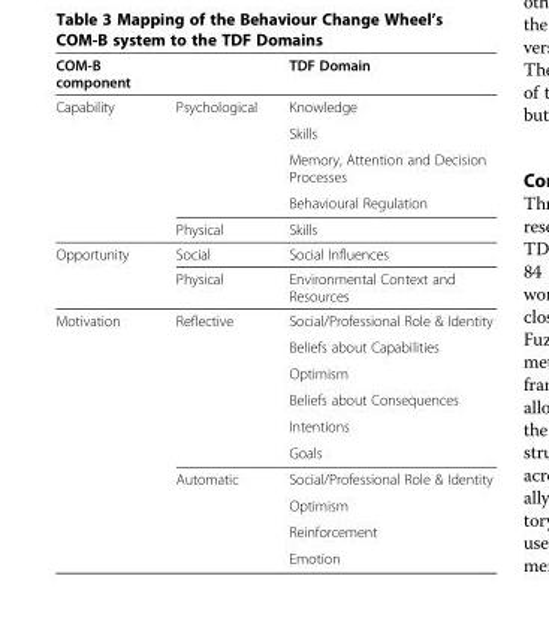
<table><thead><tr><td>COM-B component</td><td></td><td>TDF Domain</td></tr></thead><tbody><tr><td rowspan="5">Capability</td><td>Psychological</td><td>Knowledge</td></tr><tr><td></td><td>Skills</td></tr><tr><td></td><td>Memory, Attention and Decision Processes</td></tr><tr><td></td><td>Behavioural Regulation</td></tr><tr><td>Physical</td><td>Skills</td></tr><tr><td rowspan="2">Opportunity</td><td>Social</td><td>Social Influences</td></tr><tr><td>Physical</td><td>Environmental Context and Resources</td></tr><tr><td rowspan="10">Motivation</td><td>Reflective</td><td>Social/Professional Role &amp; Identity</td></tr><tr><td></td><td>Beliefs about Capabilities</td></tr><tr><td></td><td>Optimism</td></tr><tr><td></td><td>Beliefs about Consequences</td></tr><tr><td></td><td>Intentions</td></tr><tr><td></td><td>Goals</td></tr><tr><td>Automatic</td><td>Social/Professional Role &amp; Identity</td></tr><tr><td></td><td>Optimism</td></tr><tr><td></td><td>Reinforcement</td></tr><tr><td></td><td>Emotion</td></tr></tbody></table>